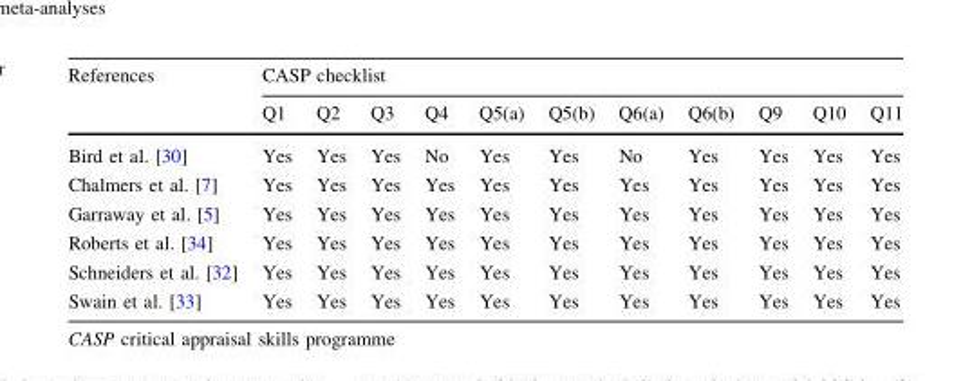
<table><thead><tr><td rowspan="2">References</td><td colspan="11">CASP checklist</td></tr><tr><td>Q1</td><td>Q2</td><td>Q3</td><td>Q4</td><td>Q5(a)</td><td>Q5(b)</td><td>Q6(a)</td><td>Q6(b)</td><td>Q9</td><td>Q10</td><td>Q11</td></tr></thead><tbody><tr><td>Bird et al. [30]</td><td>Yes</td><td>Yes</td><td>Yes</td><td>No</td><td>Yes</td><td>Yes</td><td>No</td><td>Yes</td><td>Yes</td><td>Yes</td><td>Yes</td></tr><tr><td>Chalmers et al. [7]</td><td>Yes</td><td>Yes</td><td>Yes</td><td>Yes</td><td>Yes</td><td>Yes</td><td>Yes</td><td>Yes</td><td>Yes</td><td>Yes</td><td>Yes</td></tr><tr><td>Garraway et al. [5]</td><td>Yes</td><td>Yes</td><td>Yes</td><td>Yes</td><td>Yes</td><td>Yes</td><td>Yes</td><td>Yes</td><td>Yes</td><td>Yes</td><td>Yes</td></tr><tr><td>Roberts et al. [34]</td><td>Yes</td><td>Yes</td><td>Yes</td><td>Yes</td><td>Yes</td><td>Yes</td><td>Yes</td><td>Yes</td><td>Yes</td><td>Yes</td><td>Yes</td></tr><tr><td>Schneiders et al. [32]</td><td>Yes</td><td>Yes</td><td>Yes</td><td>Yes</td><td>Yes</td><td>Yes</td><td>Yes</td><td>Yes</td><td>Yes</td><td>Yes</td><td>Yes</td></tr><tr><td>Swain et al. [33]</td><td>Yes</td><td>Yes</td><td>Yes</td><td>Yes</td><td>Yes</td><td>Yes</td><td>Yes</td><td>Yes</td><td>Yes</td><td>Yes</td><td>Yes</td></tr></tbody></table>